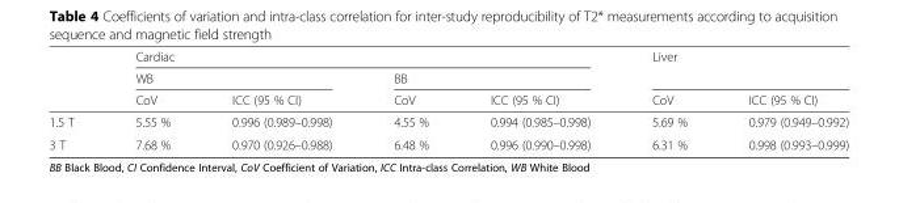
<table><thead><tr><td rowspan="3"></td><td colspan="4">Cardiac</td><td rowspan="2" colspan="2">Liver</td></tr><tr><td colspan="2">WB</td><td colspan="2">BB</td></tr><tr><td>CoV</td><td>ICC (95 % CI)</td><td>CoV</td><td>ICC (95 % CI)</td><td>CoV</td><td>ICC (95 % CI)</td></tr></thead><tbody><tr><td>1.5 T</td><td>5.55 %</td><td>0.996 (0.989–0.998)</td><td>4.55 %</td><td>0.994 (0.985–0.998)</td><td>5.69 %</td><td>0.979 (0.949–0.992)</td></tr><tr><td>3 T</td><td>7.68 %</td><td>0.970 (0.926–0.988)</td><td>6.48 %</td><td>0.996 (0.990–0.998)</td><td>6.31 %</td><td>0.998 (0.993–0.999)</td></tr></tbody></table>